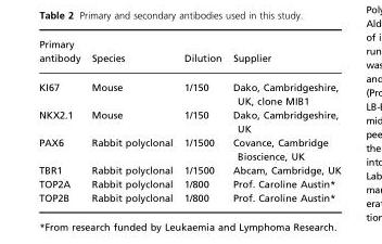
<table><thead><tr><td>Primary antibody</td><td>Species</td><td>Dilution</td><td>Supplier</td></tr></thead><tbody><tr><td>KI67</td><td>Mouse</td><td>1/150</td><td>Dako, Cambridgeshire, UK, clone MIB1</td></tr><tr><td>NKX2.1</td><td>Mouse</td><td>1/150</td><td>Dako, Cambridgeshire, UK</td></tr><tr><td>PAX6</td><td>Rabbit polyclonal</td><td>1/1500</td><td>Covance, Cambridge Bioscience, UK</td></tr><tr><td>TBR1</td><td>Rabbit polyclonal</td><td>1/1500</td><td>Abcam, Cambridge, UK</td></tr><tr><td>TOP2A</td><td>Rabbit polyclonal</td><td>1/800</td><td>Prof. Caroline Austin*</td></tr><tr><td>TOP2B</td><td>Rabbit polyclonal</td><td>1/800</td><td>Prof. Caroline Austin*</td></tr></tbody></table>